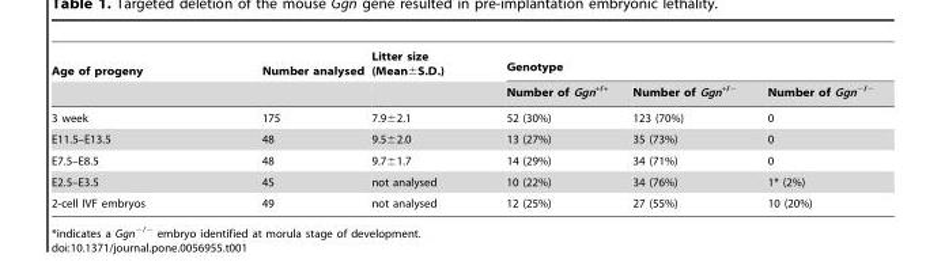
<table><thead><tr><td rowspan="2">Age of progeny</td><td rowspan="2">Number analysed</td><td rowspan="2">Litter size (Mean±S.D.)</td><td colspan="3">Genotype</td></tr><tr><td>Number of Ggn<sup>+/+</sup></td><td>Number of Ggn<sup>+/−</sup></td><td>Number of Ggn<sup>−/−</sup></td></tr></thead><tbody><tr><td>3 week</td><td>175</td><td>7.9±2.1</td><td>52 (30%)</td><td>123 (70%)</td><td>0</td></tr><tr><td>E11.5–E13.5</td><td>48</td><td>9.5±2.0</td><td>13 (27%)</td><td>35 (73%)</td><td>0</td></tr><tr><td>E7.5–E8.5</td><td>48</td><td>9.7±1.7</td><td>14 (29%)</td><td>34 (71%)</td><td>0</td></tr><tr><td>E2.5–E3.5</td><td>45</td><td>not analysed</td><td>10 (22%)</td><td>34 (76%)</td><td>1* (2%)</td></tr><tr><td>2-cell IVF embryos</td><td>49</td><td>not analysed</td><td>12 (25%)</td><td>27 (55%)</td><td>10 (20%)</td></tr></tbody></table>